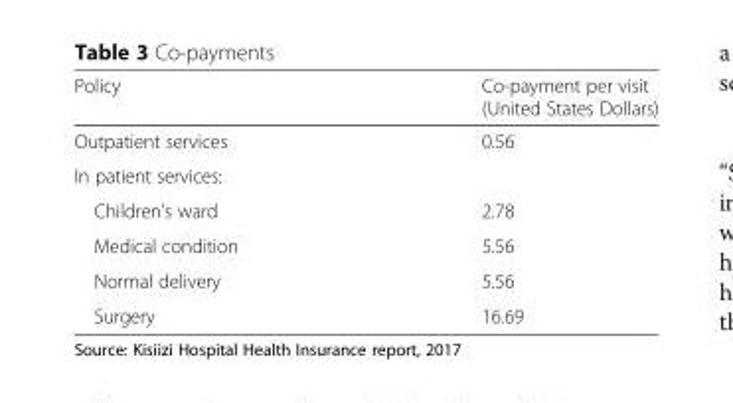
<table><thead><tr><td>Policy</td><td>Co-payment per visit (United States Dollars)</td></tr></thead><tbody><tr><td>Outpatient services</td><td>0.56</td></tr><tr><td colspan="2">In patient services:</td></tr><tr><td>Children’s ward</td><td>2.78</td></tr><tr><td>Medical condition</td><td>5.56</td></tr><tr><td>Normal delivery</td><td>5.56</td></tr><tr><td>Surgery</td><td>16.69</td></tr></tbody></table>